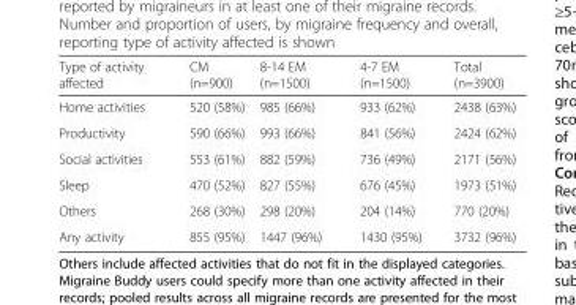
<table><thead><tr><td>Type of activity affected</td><td>CM (n=900)</td><td>8-14 EM (n=1500)</td><td>4-7 EM (n=1500)</td><td>Total (n=3900)</td></tr></thead><tbody><tr><td>Home activities</td><td>520 (58%)</td><td>985 (66%)</td><td>933 (62%)</td><td>2438 (63%)</td></tr><tr><td>Productivity</td><td>590 (66%)</td><td>993 (66%)</td><td>841 (56%)</td><td>2424 (62%)</td></tr><tr><td>Social activities</td><td>553 (61%)</td><td>882 (59%)</td><td>736 (49%)</td><td>2171 (56%)</td></tr><tr><td>Sleep</td><td>470 (52%)</td><td>827 (55%)</td><td>676 (45%)</td><td>1973 (51%)</td></tr><tr><td>Others</td><td>268 (30%)</td><td>298 (20%)</td><td>204 (14%)</td><td>770 (20%)</td></tr><tr><td>Any activity</td><td>855 (95%)</td><td>1447 (96%)</td><td>1430 (95%)</td><td>3732 (96%)</td></tr></tbody></table>